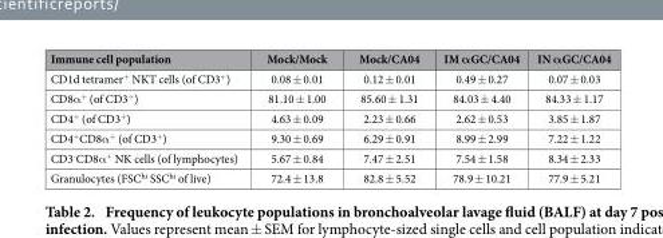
<table><thead><tr><td>Immune cell population</td><td>Mock/Mock</td><td>Mock/CA04</td><td>IM αGC/CA04</td><td>IN αGC/CA04</td></tr></thead><tbody><tr><td>CD1d tetramer<sup>+</sup> NKT cells (of CD3<sup>+</sup>)</td><td>0.08 ± 0.01</td><td>0.12 ± 0.01</td><td>0.49 ± 0.27</td><td>0.07 ± 0.03</td></tr><tr><td>CD8α <sup>+</sup> (of CD3<sup>+</sup>)</td><td>81.10 ± 1.00</td><td>85.60 ± 1.31</td><td>84.03 ± 4.40</td><td>84.33 ± 1.17</td></tr><tr><td>CD4<sup>+</sup> (of CD3<sup>+</sup>)</td><td>4.63 ± 0.09</td><td>2.23 ± 0.66</td><td>2.62 ± 0.53</td><td>3.85 ± 1.87</td></tr><tr><td>CD4<sup>+</sup>CD8α <sup>+</sup> (of CD3<sup>+</sup>)</td><td>9.30 ± 0.69</td><td>6.29 ± 0.91</td><td>8.99 ± 2.99</td><td>7.22 ± 1.22</td></tr><tr><td>CD3<sup>-</sup>CD8α <sup>+</sup> NK cells (of lymphocytes)</td><td>5.67 ± 0.84</td><td>7.47 ± 2.51</td><td>7.54 ± 1.58</td><td>8.34 ± 2.33</td></tr><tr><td>Granulocytes (FSC<sup>hi</sup> SSC<sup>hi</sup> of live)</td><td>72.4 ± 13.8</td><td>82.8 ± 5.52</td><td>78.9 ± 10.21</td><td>77.9 ± 5.21</td></tr></tbody></table>